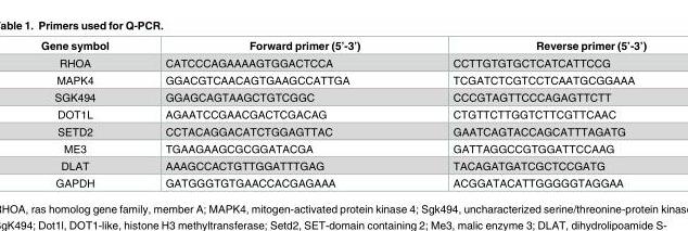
<table><thead><tr><td>Gene symbol</td><td>Forward primer (5’-3’)</td><td>Reverse primer (5’-3’)</td></tr></thead><tbody><tr><td>RHOA</td><td>CATCCCAGAAAAGTGGACTCCA</td><td>CCTTGTGTGCTCATCATTCCG</td></tr><tr><td>MAPK4</td><td>GGACGTCAACAGTGAAGCCATTGA</td><td>TCGATCTCGTCCTCAATGCGGAAA</td></tr><tr><td>SGK494</td><td>GGAGCAGTAAGCTGTCGGC</td><td>CCCGTAGTTCCCAGAGTTCTT</td></tr><tr><td>DOT1L</td><td>AGAATCCGAACGACTCGACAG</td><td>CTGTTCTTGGTCTTCGTTCAAC</td></tr><tr><td>SETD2</td><td>CCTACAGGACATCTGGAGTTAC</td><td>GAATCAGTACCAGCATTTAGATG</td></tr><tr><td>ME3</td><td>TGAAGAAGCGCGGATACGA</td><td>GATTAGGCCGTGGATTCCAAG</td></tr><tr><td>DLAT</td><td>AAAGCCACTGTTGGATTTGAG</td><td>TACAGATGATCGCTCCGATG</td></tr><tr><td>GAPDH</td><td>GATGGGTGTGAACCACGAGAAA</td><td>ACGGATACATTGGGGGTAGGAA</td></tr></tbody></table>